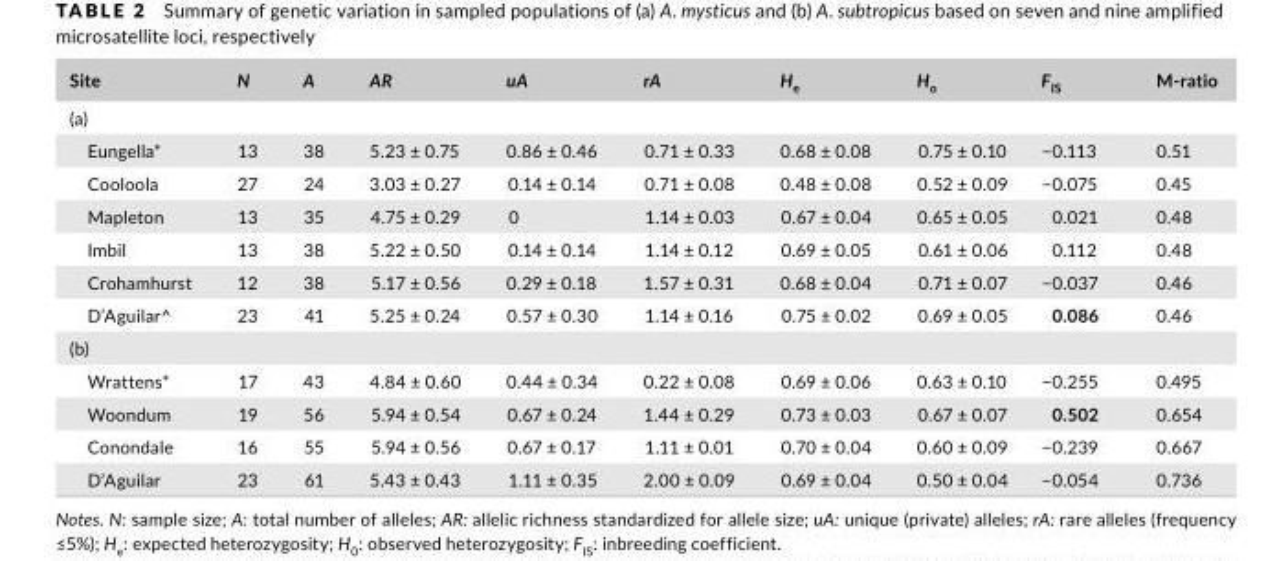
<table><thead><tr><td>Site</td><td>N</td><td>A</td><td>AR</td><td>uA</td><td>rA</td><td>H<sub>e</sub></td><td>H<sub>o</sub></td><td>F<sub>IS</sub></td><td>M- ratio</td></tr></thead><tbody><tr><td colspan="10">(a)</td></tr><tr><td>Eungella*</td><td>13</td><td>38</td><td>5.23 ± 0.75</td><td>0.86 ± 0.46</td><td>0.71 ± 0.33</td><td>0.68 ± 0.08</td><td>0.75 ± 0.10</td><td>−0.113</td><td>0.51</td></tr><tr><td>Cooloola</td><td>27</td><td>24</td><td>3.03 ± 0.27</td><td>0.14 ± 0.14</td><td>0.71 ± 0.08</td><td>0.48 ± 0.08</td><td>0.52 ± 0.09</td><td>−0.075</td><td>0.45</td></tr><tr><td>Mapleton</td><td>13</td><td>35</td><td>4.75 ± 0.29</td><td>0</td><td>1.14 ± 0.03</td><td>0.67 ± 0.04</td><td>0.65 ± 0.05</td><td>0.021</td><td>0.48</td></tr><tr><td>Imbil</td><td>13</td><td>38</td><td>5.22 ± 0.50</td><td>0.14 ± 0.14</td><td>1.14 ± 0.12</td><td>0.69 ± 0.05</td><td>0.61 ± 0.06</td><td>0.112</td><td>0.48</td></tr><tr><td>Crohamhurst</td><td>12</td><td>38</td><td>5.17 ± 0.56</td><td>0.29 ± 0.18</td><td>1.57 ± 0.31</td><td>0.68 ± 0.04</td><td>0.71 ± 0.07</td><td>−0.037</td><td>0.46</td></tr><tr><td>D’Aguilar^</td><td>23</td><td>41</td><td>5.25 ± 0.24</td><td>0.57 ± 0.30</td><td>1.14 ± 0.16</td><td>0.75 ± 0.02</td><td>0.69 ± 0.05</td><td>0.086</td><td>0.46</td></tr><tr><td colspan="10">(b)</td></tr><tr><td>Wrattens*</td><td>17</td><td>43</td><td>4.84 ± 0.60</td><td>0.44 ± 0.34</td><td>0.22 ± 0.08</td><td>0.69 ± 0.06</td><td>0.63 ± 0.10</td><td>−0.255</td><td>0.495</td></tr><tr><td>Woondum</td><td>19</td><td>56</td><td>5.94 ± 0.54</td><td>0.67 ± 0.24</td><td>1.44 ± 0.29</td><td>0.73 ± 0.03</td><td>0.67 ± 0.07</td><td>0.502</td><td>0.654</td></tr><tr><td>Conondale</td><td>16</td><td>55</td><td>5.94 ± 0.56</td><td>0.67 ± 0.17</td><td>1.11 ± 0.01</td><td>0.70 ± 0.04</td><td>0.60 ± 0.09</td><td>−0.239</td><td>0.667</td></tr><tr><td>D’Aguilar</td><td>23</td><td>61</td><td>5.43 ± 0.43</td><td>1.11 ± 0.35</td><td>2.00 ± 0.09</td><td>0.69 ± 0.04</td><td>0.50 ± 0.04</td><td>−0.054</td><td>0.736</td></tr></tbody></table>